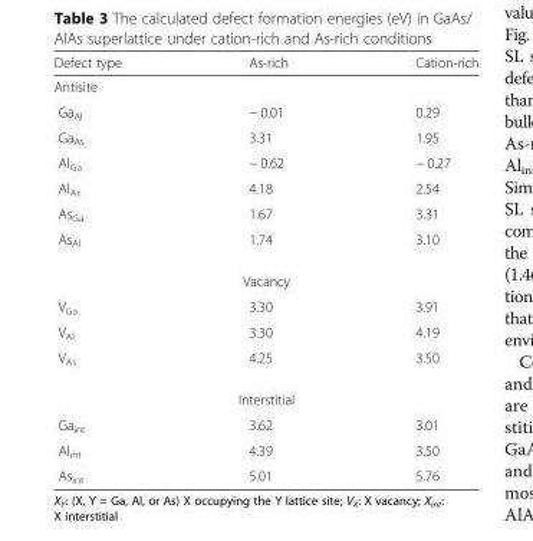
<table><thead><tr><td>Defect type</td><td>As-rich</td><td>Cation-rich</td></tr></thead><tbody><tr><td colspan="3">Antisite</td></tr><tr><td>Ga<sub>Al</sub></td><td>− 0.01</td><td>0.29</td></tr><tr><td>Ga<sub>As</sub></td><td>3.31</td><td>1.95</td></tr><tr><td>Al<sub>Ga</sub></td><td>− 0.62</td><td>− 0.27</td></tr><tr><td>Al<sub>As</sub></td><td>4.18</td><td>2.54</td></tr><tr><td>As<sub>Ga</sub></td><td>1.67</td><td>3.31</td></tr><tr><td>As<sub>Al</sub></td><td>1.74</td><td>3.10</td></tr><tr><td colspan="3">Vacancy</td></tr><tr><td>V<sub>Ga</sub></td><td>3.30</td><td>3.91</td></tr><tr><td>V<sub>Al</sub></td><td>3.30</td><td>4.19</td></tr><tr><td>V<sub>As</sub></td><td>4.25</td><td>3.50</td></tr><tr><td colspan="3">Interstitial</td></tr><tr><td>Ga<sub>int</sub></td><td>3.62</td><td>3.01</td></tr><tr><td>Al<sub>int</sub></td><td>4.39</td><td>3.50</td></tr><tr><td>As<sub>int</sub></td><td>5.01</td><td>5.76</td></tr></tbody></table>